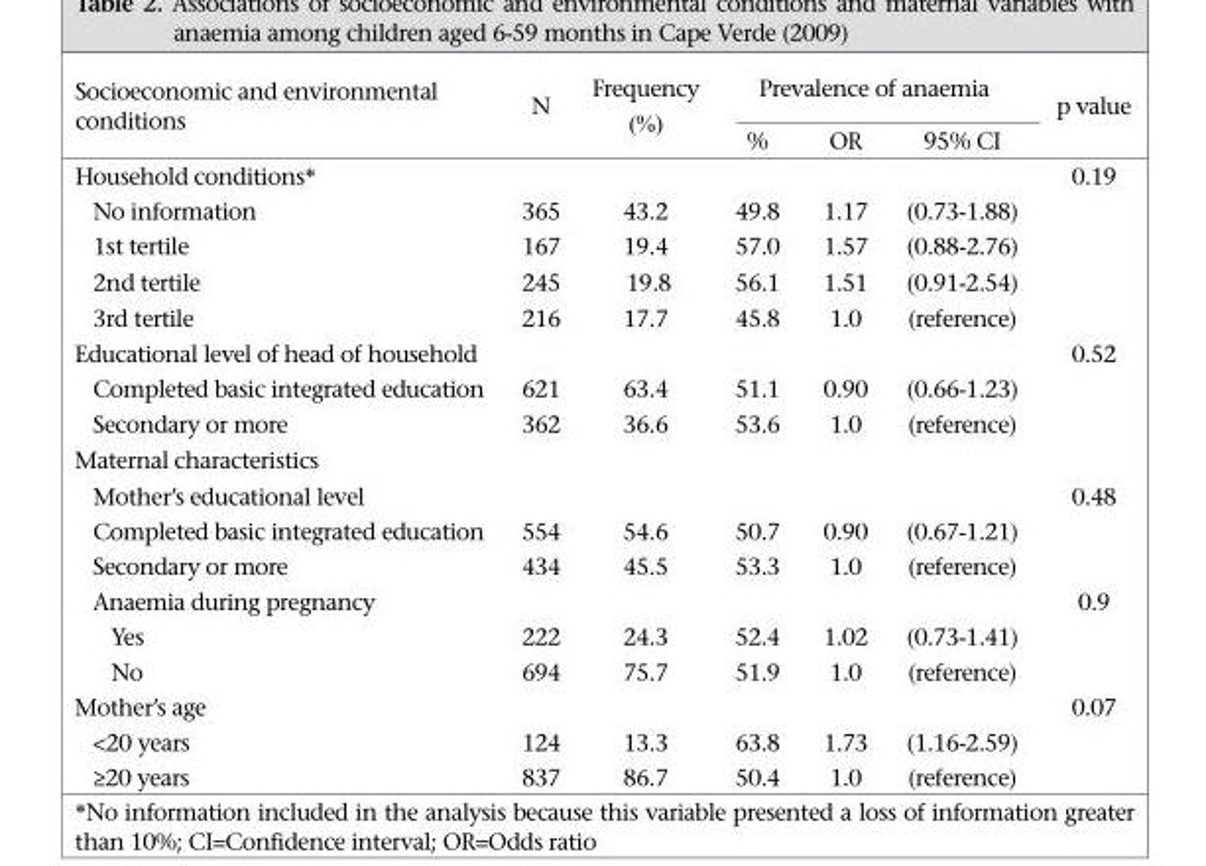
<table><thead><tr><td rowspan="2">Socioeconomic and environmental conditions</td><td rowspan="2">N</td><td rowspan="2">Frequency (%)</td><td colspan="3">Prevalence of anaemia</td><td rowspan="2">p value</td></tr><tr><td>%</td><td>OR</td><td>95% CI</td></tr></thead><tbody><tr><td>Household conditions*</td><td></td><td></td><td></td><td></td><td></td><td>0.19</td></tr><tr><td>No information</td><td>365</td><td>43.2</td><td>49.8</td><td>1.17</td><td>(0.73-1.88)</td><td></td></tr><tr><td>1st tertile</td><td>167</td><td>19.4</td><td>57.0</td><td>1.57</td><td>(0.88-2.76)</td><td></td></tr><tr><td>2nd tertile</td><td>245</td><td>19.8</td><td>56.1</td><td>1.51</td><td>(0.91-2.54)</td><td></td></tr><tr><td>3rd tertile</td><td>216</td><td>17.7</td><td>45.8</td><td>1.0</td><td>(reference)</td><td></td></tr><tr><td>Educational level of head of household</td><td></td><td></td><td></td><td></td><td></td><td>0.52</td></tr><tr><td>Completed basic integrated education</td><td>621</td><td>63.4</td><td>51.1</td><td>0.90</td><td>(0.66-1.23)</td><td></td></tr><tr><td>Secondary or more</td><td>362</td><td>36.6</td><td>53.6</td><td>1.0</td><td>(reference)</td><td></td></tr><tr><td colspan="7">Maternal characteristics</td></tr><tr><td>Mother’s educational level</td><td></td><td></td><td></td><td></td><td></td><td>0.48</td></tr><tr><td>Completed basic integrated education</td><td>554</td><td>54.6</td><td>50.7</td><td>0.90</td><td>(0.67-1.21)</td><td></td></tr><tr><td>Secondary or more</td><td>434</td><td>45.5</td><td>53.3</td><td>1.0</td><td>(reference)</td><td></td></tr><tr><td>Anaemia during pregnancy</td><td></td><td></td><td></td><td></td><td></td><td>0.9</td></tr><tr><td>Yes</td><td>222</td><td>24.3</td><td>52.4</td><td>1.02</td><td>(0.73-1.41)</td><td></td></tr><tr><td>No</td><td>694</td><td>75.7</td><td>51.9</td><td>1.0</td><td>(reference)</td><td></td></tr><tr><td>Mother’s age</td><td></td><td></td><td></td><td></td><td></td><td>0.07</td></tr><tr><td>&lt;20 years</td><td>124</td><td>13.3</td><td>63.8</td><td>1.73</td><td>(1.16-2.59)</td><td></td></tr><tr><td>≥20 years</td><td>837</td><td>86.7</td><td>50.4</td><td>1.0</td><td>(reference)</td><td></td></tr></tbody></table>